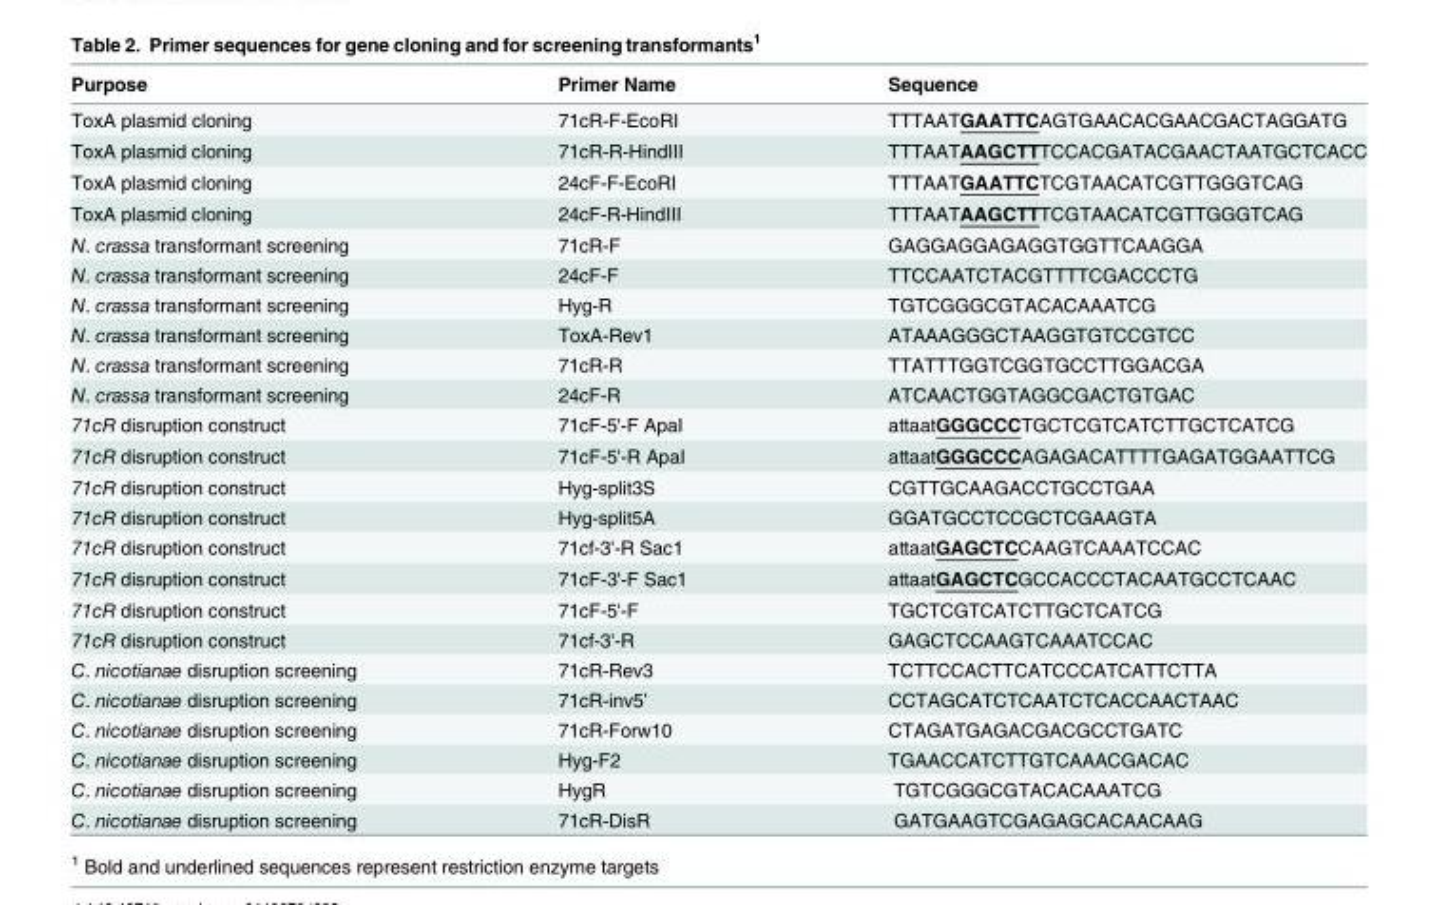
<table><thead><tr><td>Purpose</td><td>Primer Name</td><td>Sequence</td></tr></thead><tbody><tr><td>ToxA plasmid cloning</td><td>71cR-F-EcoRI</td><td>TTTAATGAATTCAGTGAACACGAACGACTAGGATG</td></tr><tr><td>ToxA plasmid cloning</td><td>71cR-R-HindIII</td><td>TTTAATAAGCTTTCCACGATACGAACTAATGCTCACC</td></tr><tr><td>ToxA plasmid cloning</td><td>24cF-F-EcoRI</td><td>TTTAATGAATTCTCGTAACATCGTTGGGTCAG</td></tr><tr><td>ToxA plasmid cloning</td><td>24cF-R-HindIII</td><td>TTTAATAAGCTTTCGTAACATCGTTGGGTCAG</td></tr><tr><td>N. crassa transformant screening</td><td>71cR-F</td><td>GAGGAGGAGAGGTGGTTCAAGGA</td></tr><tr><td>N. crassa transformant screening</td><td>24cF-F</td><td>TTCCAATCTACGTTTTCGACCCTG</td></tr><tr><td>N. crassa transformant screening</td><td>Hyg-R</td><td>TGTCGGGCGTACACAAATCG</td></tr><tr><td>N. crassa transformant screening</td><td>ToxA-Rev1</td><td>ATAAAGGGCTAAGGTGTCCGTCC</td></tr><tr><td>N. crassa transformant screening</td><td>71cR-R</td><td>TTATTTGGTCGGTGCCTTGGACGA</td></tr><tr><td>N. crassa transformant screening</td><td>24cF-R</td><td>ATCAACTGGTAGGCGACTGTGAC</td></tr><tr><td>71cR disruption construct</td><td>71cF-5&#x27;-F ApaI</td><td>attaatGGGCCCTGCTCGTCATCTTGCTCATCG</td></tr><tr><td>71cR disruption construct</td><td>71cF-5&#x27;-R ApaI</td><td>attaatGGGCCCAGAGACATTTTGAGATGGAATTCG</td></tr><tr><td>71cR disruption construct</td><td>Hyg-split3S</td><td>CGTTGCAAGACCTGCCTGAA</td></tr><tr><td>71cR disruption construct</td><td>Hyg-split5A</td><td>GGATGCCTCCGCTCGAAGTA</td></tr><tr><td>71cR disruption construct</td><td>71cf-3&#x27;-R Sac1</td><td>attaatGAGCTCCAAGTCAAATCCAC</td></tr><tr><td>71cR disruption construct</td><td>71cF-3&#x27;-F Sac1</td><td>attaatGAGCTCGCCACCCTACAATGCCTCAAC</td></tr><tr><td>71cR disruption construct</td><td>71cF-5&#x27;-F</td><td>TGCTCGTCATCTTGCTCATCG</td></tr><tr><td>71cR disruption construct</td><td>71cf-3&#x27;-R</td><td>GAGCTCCAAGTCAAATCCAC</td></tr><tr><td>C. nicotianae disruption screening</td><td>71cR-Rev3</td><td>TCTTCCACTTCATCCCATCATTCTTA</td></tr><tr><td>C. nicotianae disruption screening</td><td>71cR-inv5’</td><td>CCTAGCATCTCAATCTCACCAACTAAC</td></tr><tr><td>C. nicotianae disruption screening</td><td>71cR-Forw10</td><td>CTAGATGAGACGACGCCTGATC</td></tr><tr><td>C. nicotianae disruption screening</td><td>Hyg-F2</td><td>TGAACCATCTTGTCAAACGACAC</td></tr><tr><td>C. nicotianae disruption screening</td><td>HygR</td><td>TGTCGGGCGTACACAAATCG</td></tr><tr><td>C. nicotianae disruption screening</td><td>71cR-DisR</td><td>GATGAAGTCGAGAGCACAACAAG</td></tr></tbody></table>